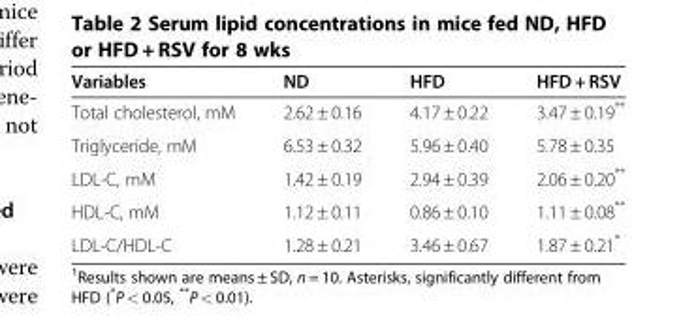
<table><thead><tr><td>Variables</td><td>ND</td><td>HFD</td><td>HFD + RSV</td></tr></thead><tbody><tr><td>Total cholesterol, mM</td><td>2.62 ± 0.16</td><td>4.17 ± 0.22</td><td>3.47 ± 0.19**</td></tr><tr><td>Triglyceride, mM</td><td>6.53 ± 0.32</td><td>5.96 ± 0.40</td><td>5.78 ± 0.35</td></tr><tr><td>LDL-C, mM</td><td>1.42 ± 0.19</td><td>2.94 ± 0.39</td><td>2.06 ± 0.20**</td></tr><tr><td>HDL-C, mM</td><td>1.12 ± 0.11</td><td>0.86 ± 0.10</td><td>1.11 ± 0.08**</td></tr><tr><td>LDL-C/HDL-C</td><td>1.28 ± 0.21</td><td>3.46 ± 0.67</td><td>1.87 ± 0.21*</td></tr></tbody></table>